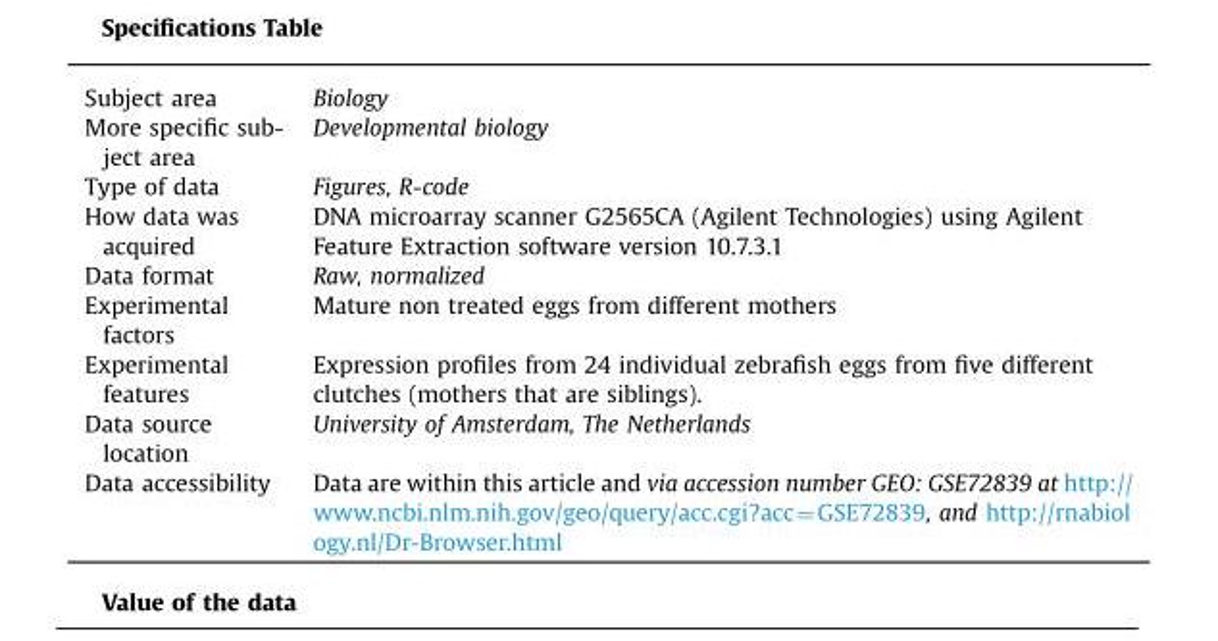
<table><tbody><tr><td>Subject area</td><td>Biology</td></tr><tr><td>More specific sub- ject area</td><td>Developmental biology</td></tr><tr><td>Type of data</td><td>Figures, R-code</td></tr><tr><td>How data was acquired</td><td>DNA microarray scanner G2565CA (Agilent Technologies) using Agilent Feature Extraction software version 10.7.3.1</td></tr><tr><td>Data format</td><td>Raw, normalized</td></tr><tr><td>Experimental factors</td><td>Mature non treated eggs from different mothers</td></tr><tr><td>Experimental features</td><td>Expression profiles from 24 individual zebrafish eggs from five different clutches (mothers that are siblings).</td></tr><tr><td>Data source location</td><td>University of Amsterdam, The Netherlands</td></tr><tr><td>Data accessibility</td><td>Data are within this article and via accession number GEO: GSE72839 at http:// www.ncbi.nlm.nih.gov/geo/query/acc.cgi?acc=GSE72839, and http://rnabiol ogy.nl/Dr-Browser.html</td></tr></tbody></table>